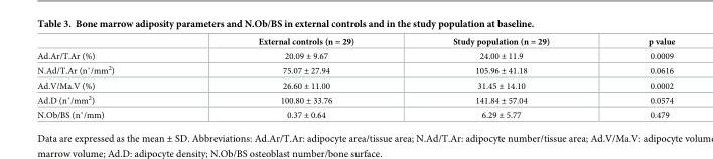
<table><thead><tr><td></td><td>External controls (n = 29)</td><td>Study population (n = 29)</td><td>p value</td></tr></thead><tbody><tr><td>Ad.Ar/T.Ar (%)</td><td>20.09 ± 9.67</td><td>24.00 ± 11.9</td><td>0.0009</td></tr><tr><td>N.Ad/T.Ar (n˚/mm2)</td><td>75.07 ± 27.94</td><td>105.96 ± 41.18</td><td>0.0616</td></tr><tr><td>Ad.V/Ma.V (%)</td><td>26.60 ± 11.00</td><td>31.45 ± 14.10</td><td>0.0002</td></tr><tr><td>Ad.D (n˚/mm2)</td><td>100.80 ± 33.76</td><td>141.84 ± 57.04</td><td>0.0574</td></tr><tr><td>N.Ob/BS (n˚/mm)</td><td>0.37 ± 0.64</td><td>6.29 ± 5.77</td><td>0.479</td></tr></tbody></table>